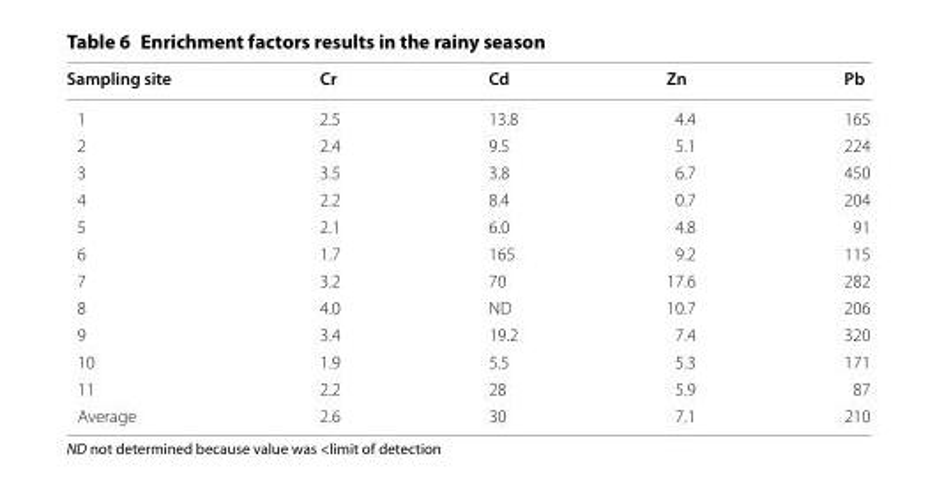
<table><thead><tr><td>Sampling site</td><td>Cr</td><td>Cd</td><td>Zn</td><td>Pb</td></tr></thead><tbody><tr><td>1</td><td>2.5</td><td>13.8</td><td>4.4</td><td>165</td></tr><tr><td>2</td><td>2.4</td><td>9.5</td><td>5.1</td><td>224</td></tr><tr><td>3</td><td>3.5</td><td>3.8</td><td>6.7</td><td>450</td></tr><tr><td>4</td><td>2.2</td><td>8.4</td><td>0.7</td><td>204</td></tr><tr><td>5</td><td>2.1</td><td>6.0</td><td>4.8</td><td>91</td></tr><tr><td>6</td><td>1.7</td><td>165</td><td>9.2</td><td>115</td></tr><tr><td>7</td><td>3.2</td><td>70</td><td>17.6</td><td>282</td></tr><tr><td>8</td><td>4.0</td><td>ND</td><td>10.7</td><td>206</td></tr><tr><td>9</td><td>3.4</td><td>19.2</td><td>7.4</td><td>320</td></tr><tr><td>10</td><td>1.9</td><td>5.5</td><td>5.3</td><td>171</td></tr><tr><td>11</td><td>2.2</td><td>28</td><td>5.9</td><td>87</td></tr><tr><td>Average</td><td>2.6</td><td>30</td><td>7.1</td><td>210</td></tr></tbody></table>